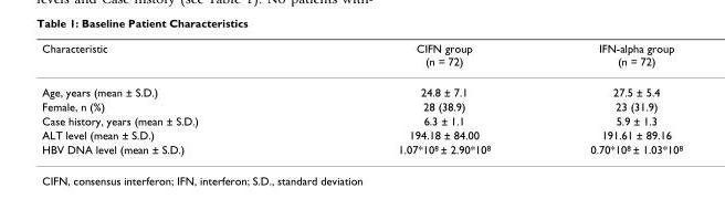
<table><thead><tr><td>Characteristic</td><td>CIFN group (n = 72)</td><td>IFN-alpha group (n = 72)</td></tr></thead><tbody><tr><td>Age, years (mean ± S.D.)</td><td>24.8 ± 7.1</td><td>27.5 ± 5.4</td></tr><tr><td>Female, n (%)</td><td>28 (38.9)</td><td>23 (31.9)</td></tr><tr><td>Case history, years (mean ± S.D.)</td><td>6.3 ± 1.1</td><td>5.9 ± 1.3</td></tr><tr><td>ALT level (mean ± S.D.)</td><td>194.18 ± 84.00</td><td>191.61 ± 89.16</td></tr><tr><td>HBV DNA level (mean ± S.D.)</td><td>1.07*10<sup>8</sup> ± 2.90*10<sup>8</sup></td><td>0.70*10<sup>8</sup> ± 1.03*10<sup>8</sup></td></tr></tbody></table>